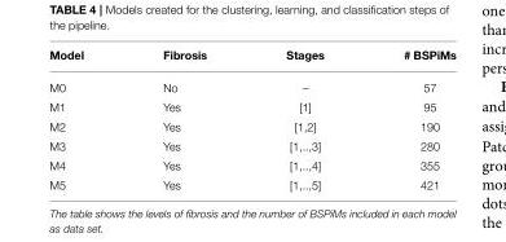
<table><thead><tr><td>Model</td><td>Fibrosis</td><td>Stages</td><td># BSPiMs</td></tr></thead><tbody><tr><td>M0</td><td>No</td><td>–</td><td>57</td></tr><tr><td>M1</td><td>Yes</td><td>[1]</td><td>95</td></tr><tr><td>M2</td><td>Yes</td><td>[1,2]</td><td>190</td></tr><tr><td>M3</td><td>Yes</td><td>[1,..,3]</td><td>280</td></tr><tr><td>M4</td><td>Yes</td><td>[1,..,4]</td><td>355</td></tr><tr><td>M5</td><td>Yes</td><td>[1,..,5]</td><td>421</td></tr></tbody></table>